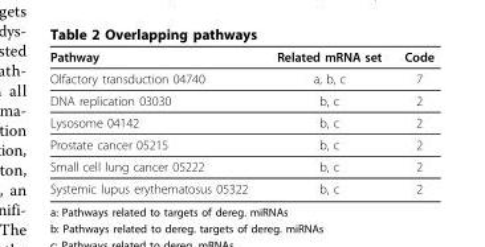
<table><thead><tr><td>Pathway</td><td>Related mRNA set</td><td>Code</td></tr></thead><tbody><tr><td>Olfactory transduction 04740</td><td>a, b, c</td><td>7</td></tr><tr><td>DNA replication 03030</td><td>b, c</td><td>2</td></tr><tr><td>Lysosome 04142</td><td>b, c</td><td>2</td></tr><tr><td>Prostate cancer 05215</td><td>b, c</td><td>2</td></tr><tr><td>Small cell lung cancer 05222</td><td>b, c</td><td>2</td></tr><tr><td>Systemic lupus erythematosus 05322</td><td>b, c</td><td>2</td></tr></tbody></table>